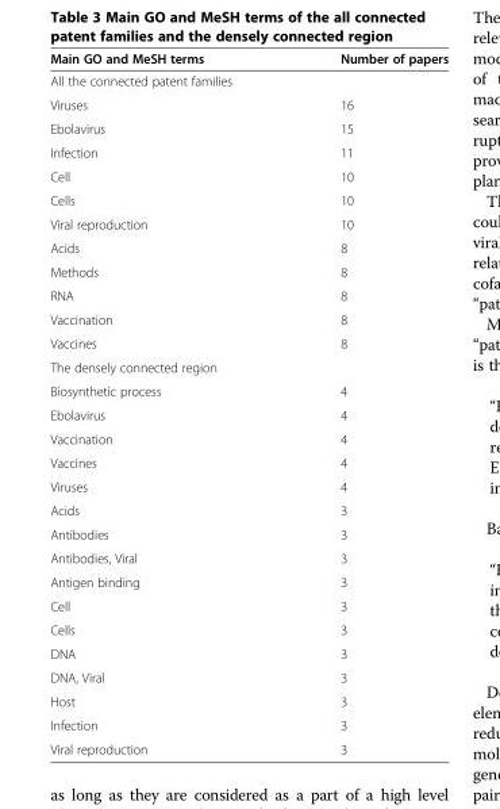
<table><thead><tr><td>Main GO and MeSH terms</td><td>Number of papers</td></tr></thead><tbody><tr><td colspan="2">All the connected patent families</td></tr><tr><td>Viruses</td><td>16</td></tr><tr><td>Ebolavirus</td><td>15</td></tr><tr><td>Infection</td><td>11</td></tr><tr><td>Cell</td><td>10</td></tr><tr><td>Cells</td><td>10</td></tr><tr><td>Viral reproduction</td><td>10</td></tr><tr><td>Acids</td><td>8</td></tr><tr><td>Methods</td><td>8</td></tr><tr><td>RNA</td><td>8</td></tr><tr><td>Vaccination</td><td>8</td></tr><tr><td>Vaccines</td><td>8</td></tr><tr><td colspan="2">The densely connected region</td></tr><tr><td>Biosynthetic process</td><td>4</td></tr><tr><td>Ebolavirus</td><td>4</td></tr><tr><td>Vaccination</td><td>4</td></tr><tr><td>Vaccines</td><td>4</td></tr><tr><td>Viruses</td><td>4</td></tr><tr><td>Acids</td><td>3</td></tr><tr><td>Antibodies</td><td>3</td></tr><tr><td>Antibodies, Viral</td><td>3</td></tr><tr><td>Antigen binding</td><td>3</td></tr><tr><td>Cell</td><td>3</td></tr><tr><td>Cells</td><td>3</td></tr><tr><td>DNA</td><td>3</td></tr><tr><td>DNA, Viral</td><td>3</td></tr><tr><td>Host</td><td>3</td></tr><tr><td>Infection</td><td>3</td></tr><tr><td>Viral reproduction</td><td>3</td></tr></tbody></table>